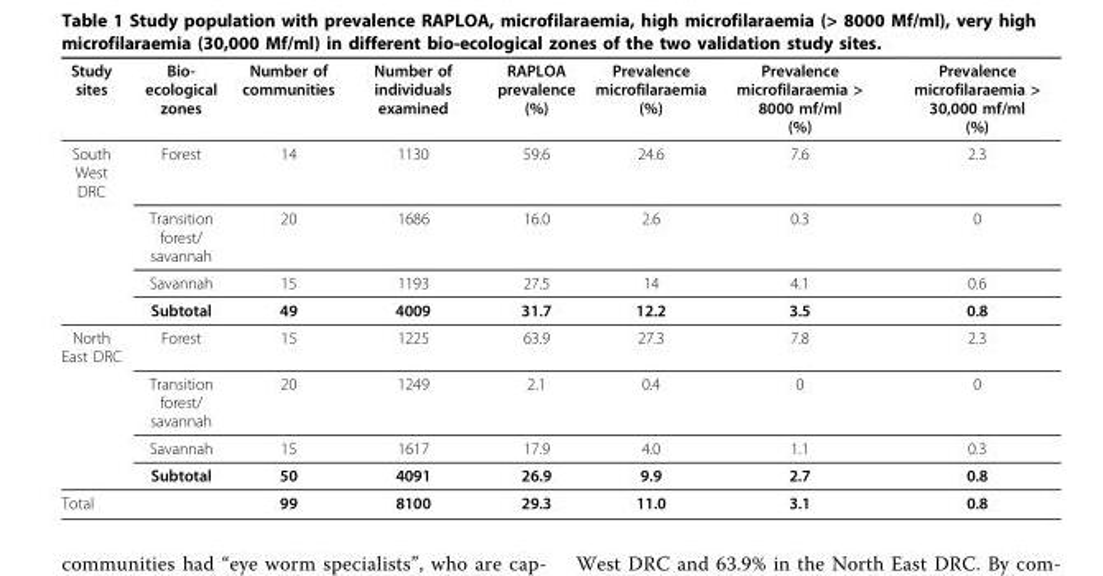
<table><thead><tr><td>Study sites</td><td>Bio- ecological zones</td><td>Number of communities</td><td>Number of individuals examined</td><td>RAPLOA prevalence (%)</td><td>Prevalence microfilaraemia (%)</td><td>Prevalence microfilaraemia &gt; 8000 mf/ml (%)</td><td>Prevalence microfilaraemia &gt; 30,000 mf/ml (%)</td></tr></thead><tbody><tr><td rowspan="4">South West DRC</td><td>Forest</td><td>14</td><td>1130</td><td>59.6</td><td>24.6</td><td>7.6</td><td>2.3</td></tr><tr><td>Transition forest/ savannah</td><td>20</td><td>1686</td><td>16.0</td><td>2.6</td><td>0.3</td><td>0</td></tr><tr><td>Savannah</td><td>15</td><td>1193</td><td>27.5</td><td>14</td><td>4.1</td><td>0.6</td></tr><tr><td>Subtotal</td><td>49</td><td>4009</td><td>31.7</td><td>12.2</td><td>3.5</td><td>0.8</td></tr><tr><td rowspan="4">North East DRC</td><td>Forest</td><td>15</td><td>1225</td><td>63.9</td><td>27.3</td><td>7.8</td><td>2.3</td></tr><tr><td>Transition forest/ savannah</td><td>20</td><td>1249</td><td>2.1</td><td>0.4</td><td>0</td><td>0</td></tr><tr><td>Savannah</td><td>15</td><td>1617</td><td>17.9</td><td>4.0</td><td>1.1</td><td>0.3</td></tr><tr><td>Subtotal</td><td>50</td><td>4091</td><td>26.9</td><td>9.9</td><td>2.7</td><td>0.8</td></tr><tr><td colspan="2">Total</td><td>99</td><td>8100</td><td>29.3</td><td>11.0</td><td>3.1</td><td>0.8</td></tr></tbody></table>